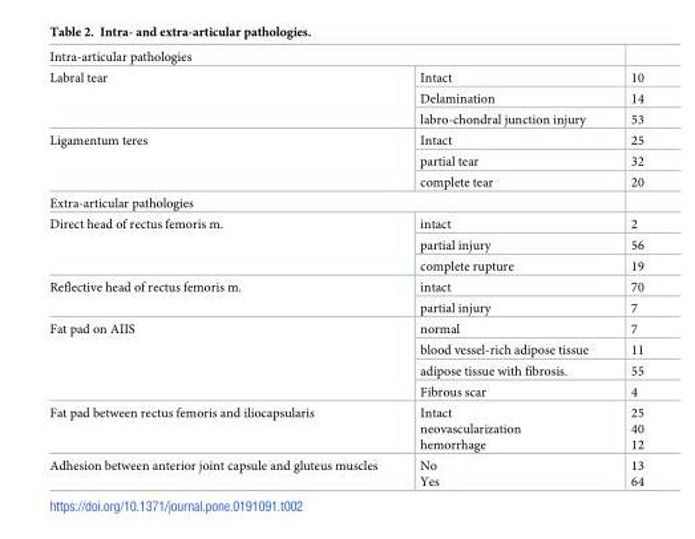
<table><tbody><tr><td colspan="3">Intra-articular pathologies</td></tr><tr><td rowspan="3">Labral tear</td><td>Intact</td><td>10</td></tr><tr><td>Delamination</td><td>14</td></tr><tr><td>labro-chondral junction injury</td><td>53</td></tr><tr><td rowspan="3">Ligamentum teres</td><td>Intact</td><td>25</td></tr><tr><td>partial tear</td><td>32</td></tr><tr><td>complete tear</td><td>20</td></tr><tr><td colspan="3">Extra-articular pathologies</td></tr><tr><td rowspan="3">Direct head of rectus femoris m.</td><td>intact</td><td>2</td></tr><tr><td>partial injury</td><td>56</td></tr><tr><td>complete rupture</td><td>19</td></tr><tr><td rowspan="2">Reflective head of rectus femoris m.</td><td>intact</td><td>70</td></tr><tr><td>partial injury</td><td>7</td></tr><tr><td rowspan="4">Fat pad on AIIS</td><td>normal</td><td>7</td></tr><tr><td>blood vessel-rich adipose tissue</td><td>11</td></tr><tr><td>adipose tissue with fibrosis.</td><td>55</td></tr><tr><td>Fibrous scar</td><td>4</td></tr><tr><td>Fat pad between rectus femoris and iliocapsularis</td><td>Intact neovascularization hemorrhage</td><td>25 40 12</td></tr><tr><td>Adhesion between anterior joint capsule and gluteus muscles</td><td>No Yes</td><td>13 64</td></tr></tbody></table>